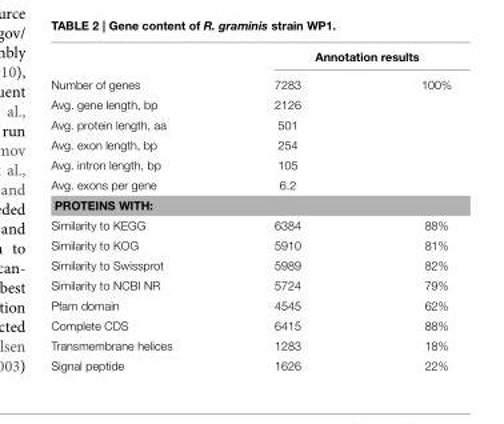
<table><thead><tr><td rowspan="2">Number of genes</td><td colspan="2">Annotation results</td></tr><tr><td>7283</td><td>100%</td></tr></thead><tbody><tr><td>Avg. gene length, bp</td><td>2126</td><td></td></tr><tr><td>Avg. protein length, aa</td><td>501</td><td></td></tr><tr><td>Avg. exon length, bp</td><td>254</td><td></td></tr><tr><td>Avg. intron length, bp</td><td>105</td><td></td></tr><tr><td>Avg. exons per gene</td><td>6.2</td><td></td></tr><tr><td colspan="3">PROTEINS WITH:</td></tr><tr><td>Similarity to KEGG</td><td>6384</td><td>88%</td></tr><tr><td>Similarity to KOG</td><td>5910</td><td>81%</td></tr><tr><td>Similarity to Swissprot</td><td>5989</td><td>82%</td></tr><tr><td>Similarity to NCBI NR</td><td>5724</td><td>79%</td></tr><tr><td>Pfam domain</td><td>4545</td><td>62%</td></tr><tr><td>Complete CDS</td><td>6415</td><td>88%</td></tr><tr><td>Transmembrane helices</td><td>1283</td><td>18%</td></tr><tr><td>Signal peptide</td><td>1626</td><td>22%</td></tr></tbody></table>